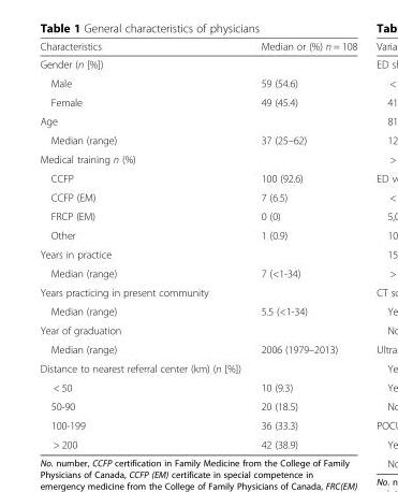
<table><thead><tr><td>Characteristics</td><td>Median or (%) n = 108</td></tr></thead><tbody><tr><td colspan="2">Gender (n [%])</td></tr><tr><td>Male</td><td>59 (54.6)</td></tr><tr><td>Female</td><td>49 (45.4)</td></tr><tr><td colspan="2">Age</td></tr><tr><td>Median (range)</td><td>37 (25–62)</td></tr><tr><td colspan="2">Medical training n (%)</td></tr><tr><td>CCFP</td><td>100 (92.6)</td></tr><tr><td>CCFP (EM)</td><td>7 (6.5)</td></tr><tr><td>FRCP (EM)</td><td>0 (0)</td></tr><tr><td>Other</td><td>1 (0.9)</td></tr><tr><td colspan="2">Years in practice</td></tr><tr><td>Median (range)</td><td>7 (&lt;1-34)</td></tr><tr><td colspan="2">Years practicing in present community</td></tr><tr><td>Median (range)</td><td>5.5 (&lt;1-34)</td></tr><tr><td colspan="2">Year of graduation</td></tr><tr><td>Median (range)</td><td>2006 (1979–2013)</td></tr><tr><td colspan="2">Distance to nearest referral center (km) (n [%])</td></tr><tr><td>&lt; 50</td><td>10 (9.3)</td></tr><tr><td>50-90</td><td>20 (18.5)</td></tr><tr><td>100-199</td><td>36 (33.3)</td></tr><tr><td>&gt; 200</td><td>42 (38.9)</td></tr></tbody></table>